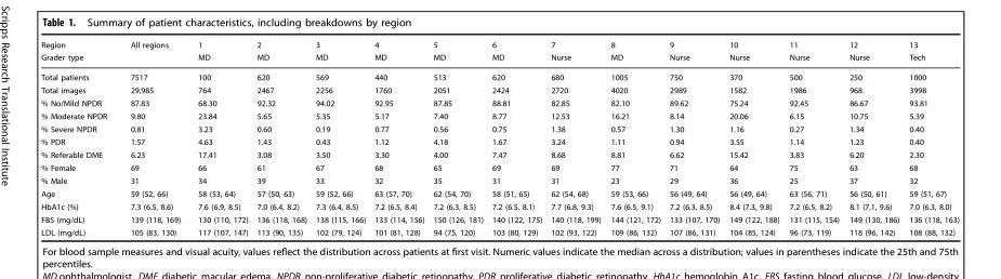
<table><thead><tr><td rowspan="2">Region Grader type</td><td rowspan="2">All regions</td><td rowspan="2">1 MD</td><td rowspan="2">2 MD</td><td rowspan="2">3 MD</td><td rowspan="2">4 MD</td><td rowspan="2">5 MD</td><td rowspan="2">6 MD</td><td rowspan="2">7 Nurse</td><td rowspan="2">8 MD</td><td rowspan="2">9 Nurse</td><td rowspan="2">10 Nurse</td><td rowspan="2">11 Nurse</td><td rowspan="2">12 Nurse</td><td rowspan="2">13 Tech</td></tr><tr></tr></thead><tbody><tr><td>Total patients</td><td>7517</td><td>100</td><td>620</td><td>569</td><td>440</td><td>513</td><td>620</td><td>680</td><td>1005</td><td>750</td><td>370</td><td>500</td><td>250</td><td>1000</td></tr><tr><td>Total images</td><td>29,985</td><td>764</td><td>2467</td><td>2256</td><td>1760</td><td>2051</td><td>2424</td><td>2720</td><td>4020</td><td>2989</td><td>1582</td><td>1986</td><td>968</td><td>3998</td></tr><tr><td>% No/Mild NPDR</td><td>87.83</td><td>68.30</td><td>92.32</td><td>94.02</td><td>92.95</td><td>87.85</td><td>88.81</td><td>82.85</td><td>82.10</td><td>89.62</td><td>75.24</td><td>92.45</td><td>86.67</td><td>93.81</td></tr><tr><td>% Moderate NPDR</td><td>9.80</td><td>23.84</td><td>5.65</td><td>5.35</td><td>5.17</td><td>7.40</td><td>8.77</td><td>12.53</td><td>16.21</td><td>8.14</td><td>20.06</td><td>6.15</td><td>10.75</td><td>5.39</td></tr><tr><td>% Severe NPDR</td><td>0.81</td><td>3.23</td><td>0.60</td><td>0.19</td><td>0.77</td><td>0.56</td><td>0.75</td><td>1.38</td><td>0.57</td><td>1.30</td><td>1.16</td><td>0.27</td><td>1.34</td><td>0.40</td></tr><tr><td>% PDR</td><td>1.57</td><td>4.63</td><td>1.43</td><td>0.43</td><td>1.12</td><td>4.18</td><td>1.67</td><td>3.24</td><td>1.11</td><td>0.94</td><td>3.55</td><td>1.14</td><td>1.23</td><td>0.40</td></tr><tr><td>% Referable DME</td><td>6.23</td><td>17.41</td><td>3.08</td><td>3.50</td><td>3.30</td><td>4.00</td><td>7.47</td><td>8.68</td><td>8.81</td><td>6.62</td><td>15.42</td><td>3.83</td><td>6.20</td><td>2.30</td></tr><tr><td>% Female</td><td>69</td><td>66</td><td>61</td><td>67</td><td>68</td><td>65</td><td>69</td><td>69</td><td>77</td><td>71</td><td>64</td><td>75</td><td>63</td><td>68</td></tr><tr><td>% Male</td><td>31</td><td>34</td><td>39</td><td>33</td><td>32</td><td>35</td><td>31</td><td>31</td><td>23</td><td>29</td><td>36</td><td>25</td><td>37</td><td>32</td></tr><tr><td>Age</td><td>59 (52, 66)</td><td>58 (53, 64)</td><td>57 (50, 63)</td><td>59 (52, 66)</td><td>63 (57, 70)</td><td>62 (54, 70)</td><td>58 (51, 65)</td><td>62 (54, 68)</td><td>59 (53, 66)</td><td>56 (49, 64)</td><td>56 (49, 64)</td><td>63 (56, 71)</td><td>56 (50, 61)</td><td>59 (51, 67)</td></tr><tr><td>HbA1c (%)</td><td>7.3 (6.5, 8.6)</td><td>7.6 (6.9, 8.5)</td><td>7.0 (6.4, 8.2)</td><td>7.3 (6.4, 8.5)</td><td>7.2 (6.5, 8.4)</td><td>7.2 (6.3, 8.5)</td><td>7.2 (6.5, 8.1)</td><td>7.7 (6.8, 9.3)</td><td>7.6 (6.5, 9.1)</td><td>7.2 (6.3, 8.5)</td><td>8.4 (7.3, 9.8)</td><td>7.2 (6.5, 8.2)</td><td>8.1 (7.1, 9.6)</td><td>7.0 (6.3, 8.0)</td></tr><tr><td>FBS (mg/dL)</td><td>139 (118, 169)</td><td>130 (110, 172)</td><td>136 (118, 168)</td><td>138 (115, 166)</td><td>133 (114, 156)</td><td>150 (126, 181)</td><td>140 (122, 175)</td><td>140 (118, 199)</td><td>144 (121, 172)</td><td>133 (107, 170)</td><td>149 (122, 188)</td><td>131 (115, 154)</td><td>149 (130, 186)</td><td>136 (118, 163)</td></tr><tr><td>LDL (mg/dL)</td><td>105 (83, 130)</td><td>117 (107, 147)</td><td>113 (90, 135)</td><td>102 (79, 124)</td><td>101 (81, 128)</td><td>94 (75, 120)</td><td>103 (80, 129)</td><td>102 (93, 122)</td><td>109 (86, 132)</td><td>107 (86, 131)</td><td>104 (85, 124)</td><td>96 (73, 119)</td><td>118 (96, 142)</td><td>108 (88, 132)</td></tr></tbody></table>